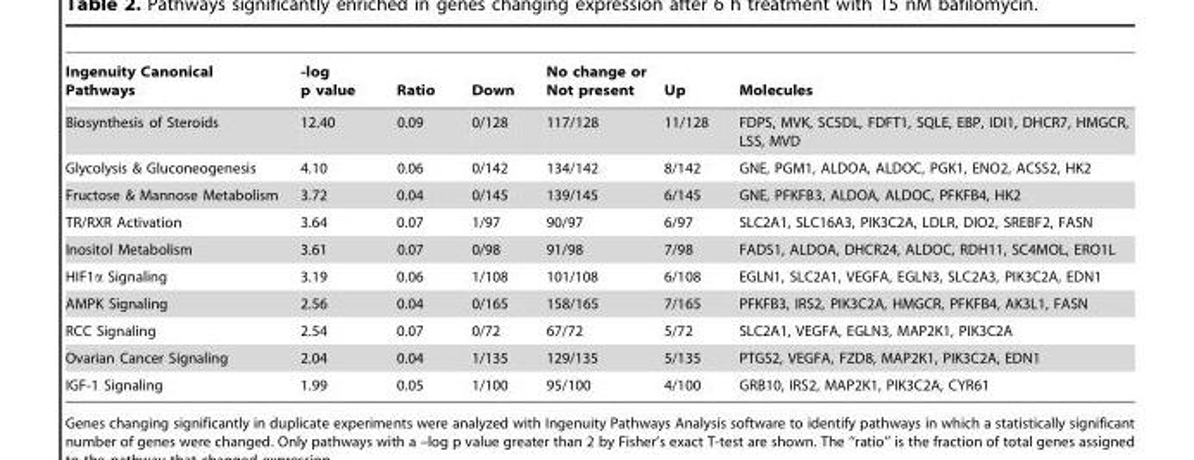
<table><thead><tr><td>Ingenuity Canonical Pathways</td><td>-log p value</td><td>Ratio</td><td>Down</td><td>No change or Not present</td><td>Up</td><td>Molecules</td></tr></thead><tbody><tr><td>Biosynthesis of Steroids</td><td>12.40</td><td>0.09</td><td>0/128</td><td>117/128</td><td>11/128</td><td>FDPS, MVK, SC5DL, FDFT1, SQLE, EBP, IDI1, DHCR7, HMGCR, LSS, MVD</td></tr><tr><td>Glycolysis &amp; Gluconeogenesis</td><td>4.10</td><td>0.06</td><td>0/142</td><td>134/142</td><td>8/142</td><td>GNE, PGM1, ALDOA, ALDOC, PGK1, ENO2, ACSS2, HK2</td></tr><tr><td>Fructose &amp; Mannose Metabolism</td><td>3.72</td><td>0.04</td><td>0/145</td><td>139/145</td><td>6/145</td><td>GNE, PFKFB3, ALDOA, ALDOC, PFKFB4, HK2</td></tr><tr><td>TR/RXR Activation</td><td>3.64</td><td>0.07</td><td>1/97</td><td>90/97</td><td>6/97</td><td>SLC2A1, SLC16A3, PIK3C2A, LDLR, DIO2, SREBF2, FASN</td></tr><tr><td>Inositol Metabolism</td><td>3.61</td><td>0.07</td><td>0/98</td><td>91/98</td><td>7/98</td><td>FADS1, ALDOA, DHCR24, ALDOC, RDH11, SC4MOL, ERO1L</td></tr><tr><td>HIF1α Signaling</td><td>3.19</td><td>0.06</td><td>1/108</td><td>101/108</td><td>6/108</td><td>EGLN1, SLC2A1, VEGFA, EGLN3, SLC2A3, PIK3C2A, EDN1</td></tr><tr><td>AMPK Signaling</td><td>2.56</td><td>0.04</td><td>0/165</td><td>158/165</td><td>7/165</td><td>PFKFB3, IRS2, PIK3C2A, HMGCR, PFKFB4, AK3L1, FASN</td></tr><tr><td>RCC Signaling</td><td>2.54</td><td>0.07</td><td>0/72</td><td>67/72</td><td>5/72</td><td>SLC2A1, VEGFA, EGLN3, MAP2K1, PIK3C2A</td></tr><tr><td>Ovarian Cancer Signaling</td><td>2.04</td><td>0.04</td><td>1/135</td><td>129/135</td><td>5/135</td><td>PTGS2, VEGFA, FZD8, MAP2K1, PIK3C2A, EDN1</td></tr><tr><td>IGF-1 Signaling</td><td>1.99</td><td>0.05</td><td>1/100</td><td>95/100</td><td>4/100</td><td>GRB10, IRS2, MAP2K1, PIK3C2A, CYR61</td></tr></tbody></table>